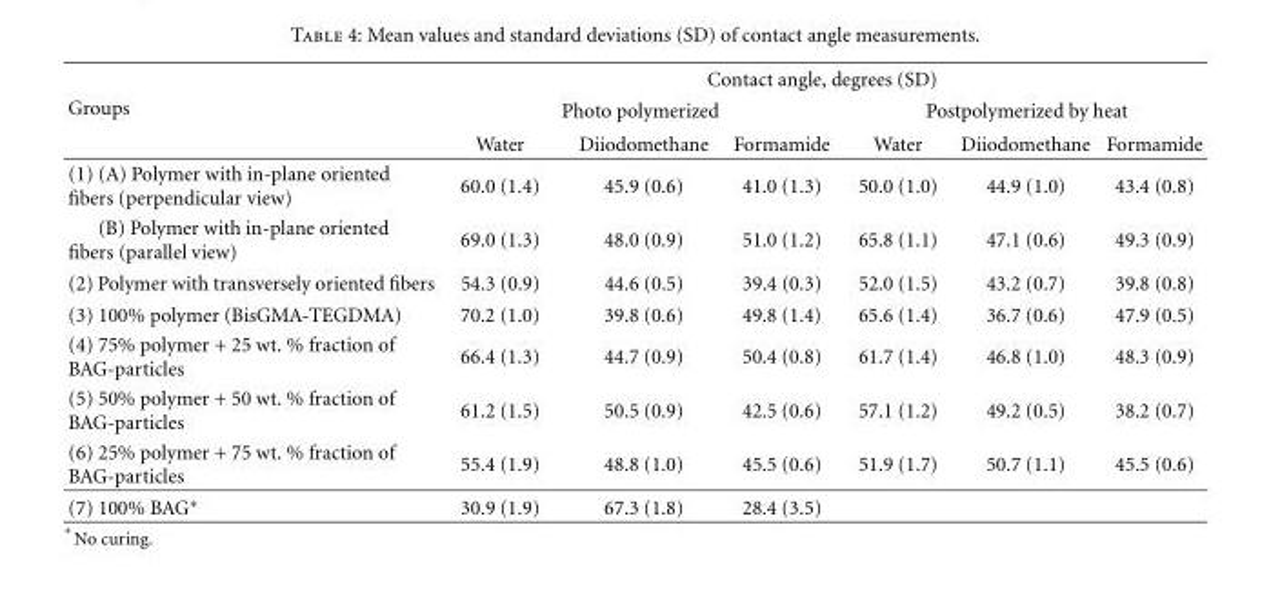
<table><thead><tr><td rowspan="3">Groups</td><td colspan="6">Contact angle, degrees (SD)</td></tr><tr><td colspan="3">Photo polymerized</td><td colspan="3">Postpolymerized by heat</td></tr><tr><td>Water</td><td>Diiodomethane</td><td>Formamide</td><td>Water</td><td>Diiodomethane</td><td>Formamide</td></tr></thead><tbody><tr><td>(1) (A) Polymer with in-plane oriented fibers (perpendicular view)</td><td>60.0 (1.4)</td><td>45.9 (0.6)</td><td>41.0 (1.3)</td><td>50.0 (1.0)</td><td>44.9 (1.0)</td><td>43.4 (0.8)</td></tr><tr><td>(B) Polymer with in-plane oriented fibers (parallel view)</td><td>69.0 (1.3)</td><td>48.0 (0.9)</td><td>51.0 (1.2)</td><td>65.8 (1.1)</td><td>47.1 (0.6)</td><td>49.3 (0.9)</td></tr><tr><td>(2) Polymer with transversely oriented fibers</td><td>54.3 (0.9)</td><td>44.6 (0.5)</td><td>39.4 (0.3)</td><td>52.0 (1.5)</td><td>43.2 (0.7)</td><td>39.8 (0.8)</td></tr><tr><td>(3) 100% polymer (BisGMA-TEGDMA)</td><td>70.2 (1.0)</td><td>39.8 (0.6)</td><td>49.8 (1.4)</td><td>65.6 (1.4)</td><td>36.7 (0.6)</td><td>47.9 (0.5)</td></tr><tr><td>(4) 75% polymer + 25 wt. % fraction of BAG-particles</td><td>66.4 (1.3)</td><td>44.7 (0.9)</td><td>50.4 (0.8)</td><td>61.7 (1.4)</td><td>46.8 (1.0)</td><td>48.3 (0.9)</td></tr><tr><td>(5) 50% polymer + 50 wt. % fraction of BAG-particles</td><td>61.2 (1.5)</td><td>50.5 (0.9)</td><td>42.5 (0.6)</td><td>57.1 (1.2)</td><td>49.2 (0.5)</td><td>38.2 (0.7)</td></tr><tr><td>(6) 25% polymer + 75 wt. % fraction of BAG-particles</td><td>55.4 (1.9)</td><td>48.8 (1.0)</td><td>45.5 (0.6)</td><td>51.9 (1.7)</td><td>50.7 (1.1)</td><td>45.5 (0.6)</td></tr><tr><td>(7) 100% BAG∗</td><td>30.9 (1.9)</td><td>67.3 (1.8)</td><td>28.4 (3.5)</td><td></td><td></td><td></td></tr></tbody></table>